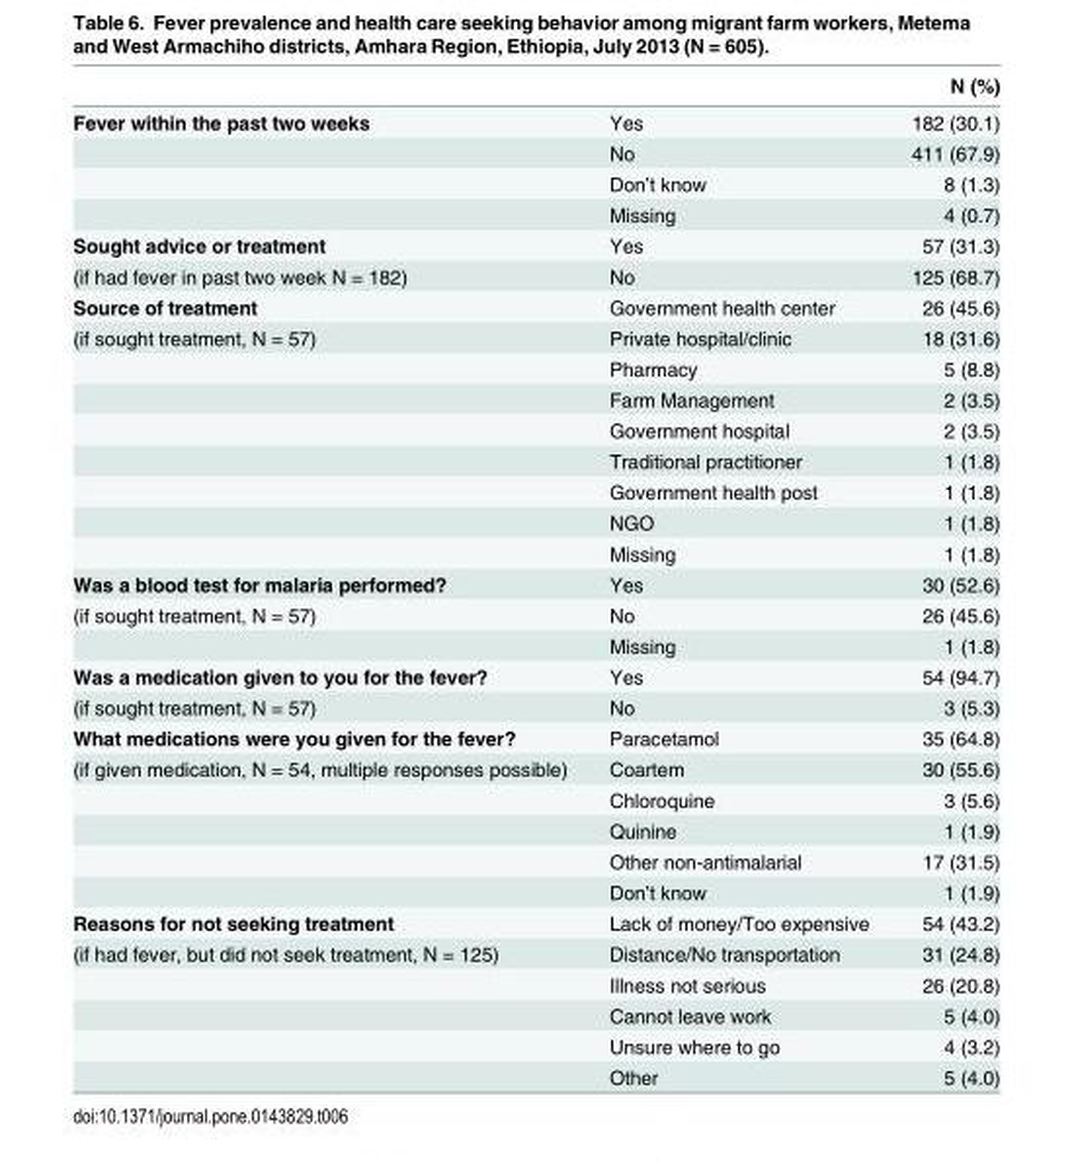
<table><thead><tr><td></td><td></td><td>N (%)</td></tr></thead><tbody><tr><td rowspan="4">Fever within the past two weeks</td><td>Yes</td><td>182 (30.1)</td></tr><tr><td>No</td><td>411 (67.9)</td></tr><tr><td>Don’t know</td><td>8 (1.3)</td></tr><tr><td>Missing</td><td>4 (0.7)</td></tr><tr><td>Sought advice or treatment</td><td>Yes</td><td>57 (31.3)</td></tr><tr><td>(if had fever in past two week N = 182)</td><td>No</td><td>125 (68.7)</td></tr><tr><td>Source of treatment</td><td>Government health center</td><td>26 (45.6)</td></tr><tr><td rowspan="8">(if sought treatment, N = 57)</td><td>Private hospital/clinic</td><td>18 (31.6)</td></tr><tr><td>Pharmacy</td><td>5 (8.8)</td></tr><tr><td>Farm Management</td><td>2 (3.5)</td></tr><tr><td>Government hospital</td><td>2 (3.5)</td></tr><tr><td>Traditional practitioner</td><td>1 (1.8)</td></tr><tr><td>Government health post</td><td>1 (1.8)</td></tr><tr><td>NGO</td><td>1 (1.8)</td></tr><tr><td>Missing</td><td>1 (1.8)</td></tr><tr><td>Was a blood test for malaria performed?</td><td>Yes</td><td>30 (52.6)</td></tr><tr><td rowspan="2">(if sought treatment, N = 57)</td><td>No</td><td>26 (45.6)</td></tr><tr><td>Missing</td><td>1 (1.8)</td></tr><tr><td>Was a medication given to you for the fever?</td><td>Yes</td><td>54 (94.7)</td></tr><tr><td>(if sought treatment, N = 57)</td><td>No</td><td>3 (5.3)</td></tr><tr><td>What medications were you given for the fever?</td><td>Paracetamol</td><td>35 (64.8)</td></tr><tr><td rowspan="5">(if given medication, N = 54, multiple responses possible)</td><td>Coartem</td><td>30 (55.6)</td></tr><tr><td>Chloroquine</td><td>3 (5.6)</td></tr><tr><td>Quinine</td><td>1 (1.9)</td></tr><tr><td>Other non-antimalarial</td><td>17 (31.5)</td></tr><tr><td>Don’t know</td><td>1 (1.9)</td></tr><tr><td>Reasons for not seeking treatment</td><td>Lack of money/Too expensive</td><td>54 (43.2)</td></tr><tr><td rowspan="5">(if had fever, but did not seek treatment, N = 125)</td><td>Distance/No transportation</td><td>31 (24.8)</td></tr><tr><td>Illness not serious</td><td>26 (20.8)</td></tr><tr><td>Cannot leave work</td><td>5 (4.0)</td></tr><tr><td>Unsure where to go</td><td>4 (3.2)</td></tr><tr><td>Other</td><td>5 (4.0)</td></tr></tbody></table>